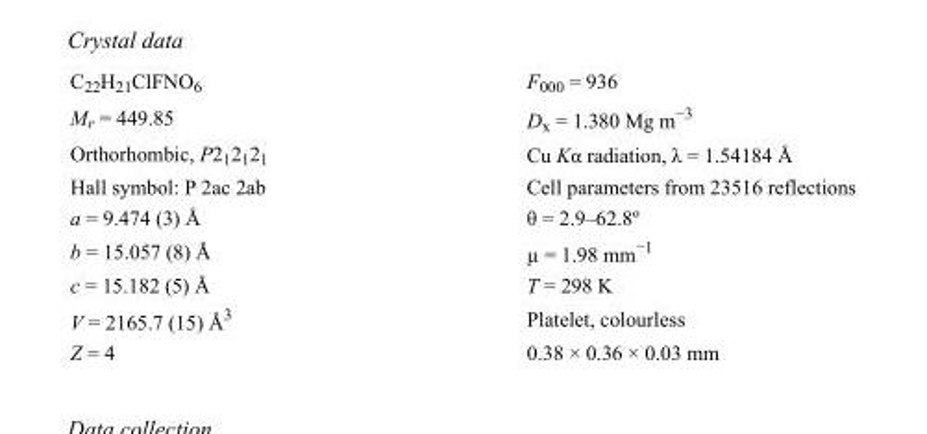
<table><tbody><tr><td>C<sub>22</sub>H<sub>21</sub>ClFNO<sub>6</sub></td><td>F000 = 936</td></tr><tr><td>M<sub>r</sub> = 449.85</td><td>D<sub>x</sub> = 1.380 Mg m<sup>−3</sup></td></tr><tr><td>Orthorhombic, P2<sub>1</sub>2<sub>1</sub>2<sub>1</sub></td><td>Cu Kα radiation, λ = 1.54184 Å</td></tr><tr><td>Hall symbol: P 2ac 2ab</td><td>Cell parameters from 23516 reflections</td></tr><tr><td>a = 9.474 (3) Å</td><td>θ = 2.9–62.8º</td></tr><tr><td>b = 15.057 (8) Å</td><td>µ = 1.98 mm<sup>−1</sup></td></tr><tr><td>c = 15.182 (5) Å</td><td>T = 298 K</td></tr><tr><td>V = 2165.7 (15) Å<sup>3</sup></td><td>Platelet, colourless</td></tr><tr><td>Z = 4</td><td>0.38 × 0.36 × 0.03 mm</td></tr></tbody></table>